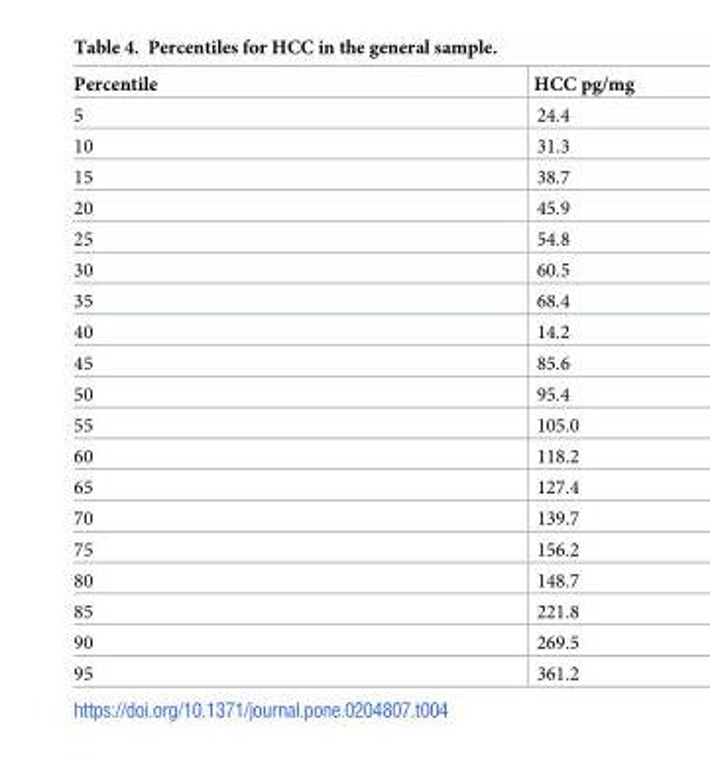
<table><thead><tr><td>Percentile</td><td>HCC pg/mg</td></tr></thead><tbody><tr><td>5</td><td>24.4</td></tr><tr><td>10</td><td>31.3</td></tr><tr><td>15</td><td>38.7</td></tr><tr><td>20</td><td>45.9</td></tr><tr><td>25</td><td>54.8</td></tr><tr><td>30</td><td>60.5</td></tr><tr><td>35</td><td>68.4</td></tr><tr><td>40</td><td>14.2</td></tr><tr><td>45</td><td>85.6</td></tr><tr><td>50</td><td>95.4</td></tr><tr><td>55</td><td>105.0</td></tr><tr><td>60</td><td>118.2</td></tr><tr><td>65</td><td>127.4</td></tr><tr><td>70</td><td>139.7</td></tr><tr><td>75</td><td>156.2</td></tr><tr><td>80</td><td>148.7</td></tr><tr><td>85</td><td>221.8</td></tr><tr><td>90</td><td>269.5</td></tr><tr><td>95</td><td>361.2</td></tr></tbody></table>